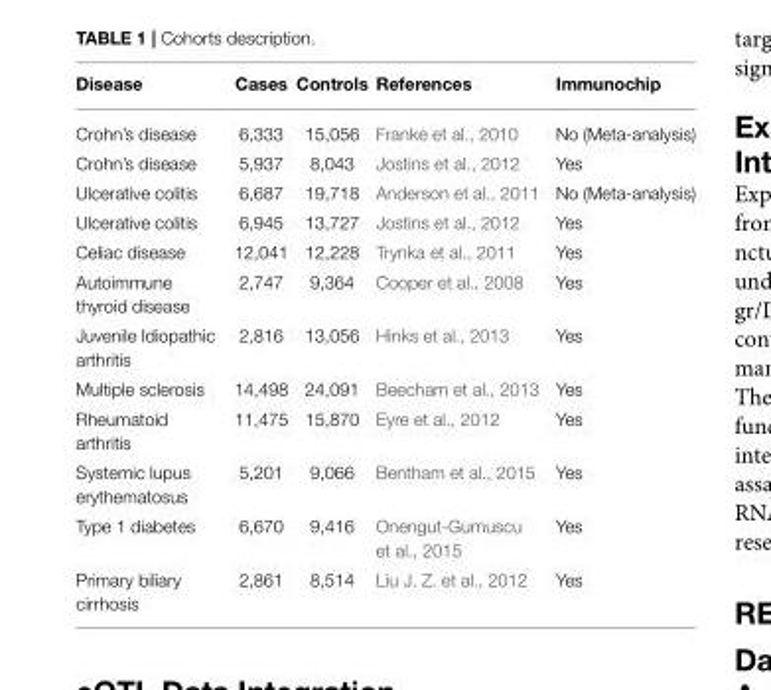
<table><thead><tr><td>Disease</td><td>Cases</td><td>Controls</td><td>References</td><td>Immunochip</td></tr></thead><tbody><tr><td>Crohn’s disease</td><td>6,333</td><td>15,056</td><td>Franke et al., 2010</td><td>No (Meta-analysis)</td></tr><tr><td>Crohn’s disease</td><td>5,937</td><td>8,043</td><td>Jostins et al., 2012</td><td>Yes</td></tr><tr><td>Ulcerative colitis</td><td>6,687</td><td>19,718</td><td>Anderson et al., 2011</td><td>No (Meta-analysis)</td></tr><tr><td>Ulcerative colitis</td><td>6,945</td><td>13,727</td><td>Jostins et al., 2012</td><td>Yes</td></tr><tr><td>Celiac disease</td><td>12,041</td><td>12,228</td><td>Trynka et al., 2011</td><td>Yes</td></tr><tr><td>Autoimmune thyroid disease</td><td>2,747</td><td>9,364</td><td>Cooper et al., 2008</td><td>Yes</td></tr><tr><td>Juvenile Idiopathic arthritis</td><td>2,816</td><td>13,056</td><td>Hinks et al., 2013</td><td>Yes</td></tr><tr><td>Multiple sclerosis</td><td>14,498</td><td>24,091</td><td>Beecham et al., 2013</td><td>Yes</td></tr><tr><td>Rheumatoid arthritis</td><td>11,475</td><td>15,870</td><td>Eyre et al., 2012</td><td>Yes</td></tr><tr><td>Systemic lupus erythematosus</td><td>5,201</td><td>9,066</td><td>Bentham et al., 2015</td><td>Yes</td></tr><tr><td>Type 1 diabetes</td><td>6,670</td><td>9,416</td><td>Onengut-Gumuscu et al., 2015</td><td>Yes</td></tr><tr><td>Primary biliary cirrhosis</td><td>2,861</td><td>8,514</td><td>Liu J. Z. et al., 2012</td><td>Yes</td></tr></tbody></table>